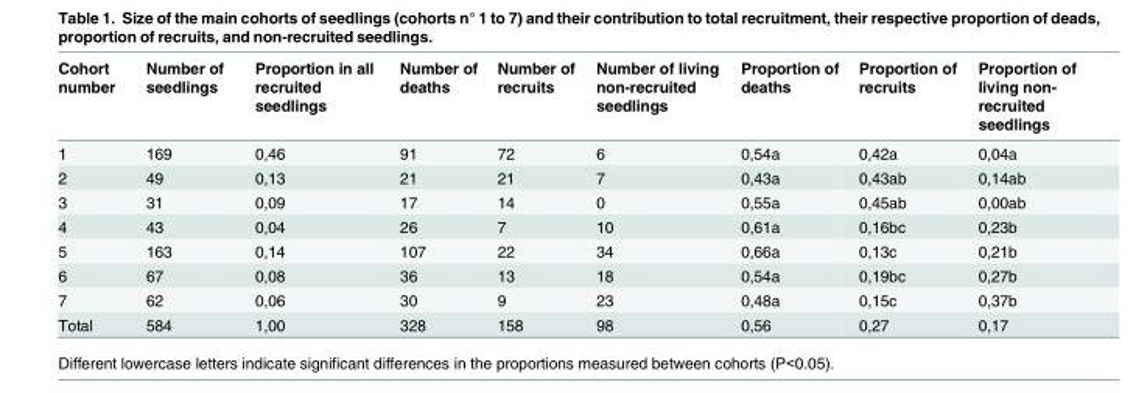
<table><thead><tr><td>Cohort number</td><td>Number of seedlings</td><td>Proportion in all recruited seedlings</td><td>Number of deaths</td><td>Number of recruits</td><td>Number of living non-recruited seedlings</td><td>Proportion of deaths</td><td>Proportion of recruits</td><td>Proportion of living non- recruited seedlings</td></tr></thead><tbody><tr><td>1</td><td>169</td><td>0,46</td><td>91</td><td>72</td><td>6</td><td>0,54a</td><td>0,42a</td><td>0,04a</td></tr><tr><td>2</td><td>49</td><td>0,13</td><td>21</td><td>21</td><td>7</td><td>0,43a</td><td>0,43ab</td><td>0,14ab</td></tr><tr><td>3</td><td>31</td><td>0,09</td><td>17</td><td>14</td><td>0</td><td>0,55a</td><td>0,45ab</td><td>0,00ab</td></tr><tr><td>4</td><td>43</td><td>0,04</td><td>26</td><td>7</td><td>10</td><td>0,61a</td><td>0,16bc</td><td>0,23b</td></tr><tr><td>5</td><td>163</td><td>0,14</td><td>107</td><td>22</td><td>34</td><td>0,66a</td><td>0,13c</td><td>0,21b</td></tr><tr><td>6</td><td>67</td><td>0,08</td><td>36</td><td>13</td><td>18</td><td>0,54a</td><td>0,19bc</td><td>0,27b</td></tr><tr><td>7</td><td>62</td><td>0,06</td><td>30</td><td>9</td><td>23</td><td>0,48a</td><td>0,15c</td><td>0,37b</td></tr><tr><td>Total</td><td>584</td><td>1,00</td><td>328</td><td>158</td><td>98</td><td>0,56</td><td>0,27</td><td>0,17</td></tr></tbody></table>